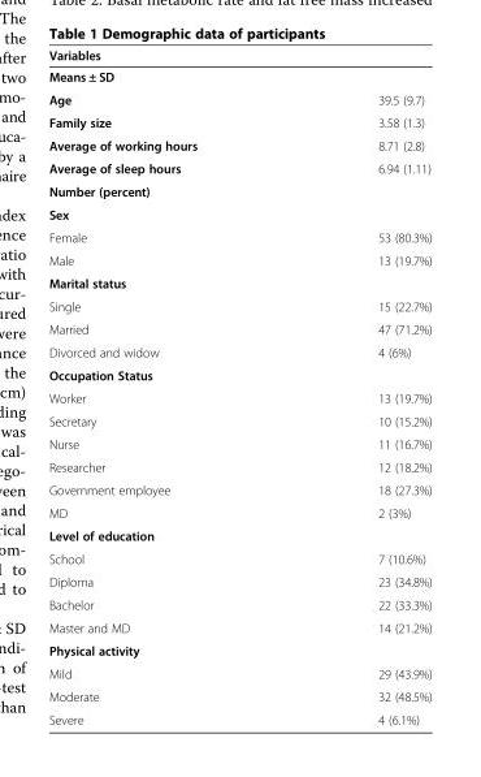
<table><thead><tr><td rowspan="2" colspan="2">Variables Means ± SD</td></tr><tr></tr><tr><td>Age</td><td>39.5 (9.7)</td></tr></thead><tbody><tr><td>Family size</td><td>3.58 (1.3)</td></tr><tr><td>Average of working hours</td><td>8.71 (2.8)</td></tr><tr><td>Average of sleep hours</td><td>6.94 (1.11)</td></tr><tr><td colspan="2">Number (percent)</td></tr><tr><td colspan="2">Sex</td></tr><tr><td>Female</td><td>53 (80.3%)</td></tr><tr><td>Male</td><td>13 (19.7%)</td></tr><tr><td colspan="2">Marital status</td></tr><tr><td>Single</td><td>15 (22.7%)</td></tr><tr><td>Married</td><td>47 (71.2%)</td></tr><tr><td>Divorced and widow</td><td>4 (6%)</td></tr><tr><td colspan="2">Occupation Status</td></tr><tr><td>Worker</td><td>13 (19.7%)</td></tr><tr><td>Secretary</td><td>10 (15.2%)</td></tr><tr><td>Nurse</td><td>11 (16.7%)</td></tr><tr><td>Researcher</td><td>12 (18.2%)</td></tr><tr><td>Government employee</td><td>18 (27.3%)</td></tr><tr><td>MD</td><td>2 (3%)</td></tr><tr><td colspan="2">Level of education</td></tr><tr><td>School</td><td>7 (10.6%)</td></tr><tr><td>Diploma</td><td>23 (34.8%)</td></tr><tr><td>Bachelor</td><td>22 (33.3%)</td></tr><tr><td>Master and MD</td><td>14 (21.2%)</td></tr><tr><td colspan="2">Physical activity</td></tr><tr><td>Mild</td><td>29 (43.9%)</td></tr><tr><td>Moderate</td><td>32 (48.5%)</td></tr><tr><td>Severe</td><td>4 (6.1%)</td></tr></tbody></table>